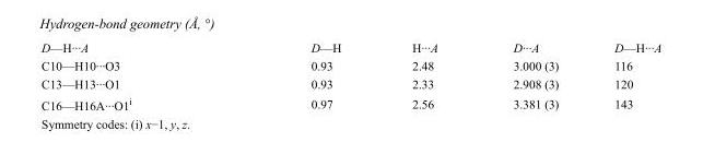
<table><tbody><tr><td>D—H···A</td><td>D—H</td><td>H···A</td><td>D···A</td><td>D—H···A</td></tr><tr><td>C10—H10···O3</td><td>0.93</td><td>2.48</td><td>3.000 (3)</td><td>116</td></tr><tr><td>C13—H13···O1</td><td>0.93</td><td>2.33</td><td>2.908 (3)</td><td>120</td></tr><tr><td>C16—H16A···O1<sup>i</sup></td><td>0.97</td><td>2.56</td><td>3.381 (3)</td><td>143</td></tr></tbody></table>